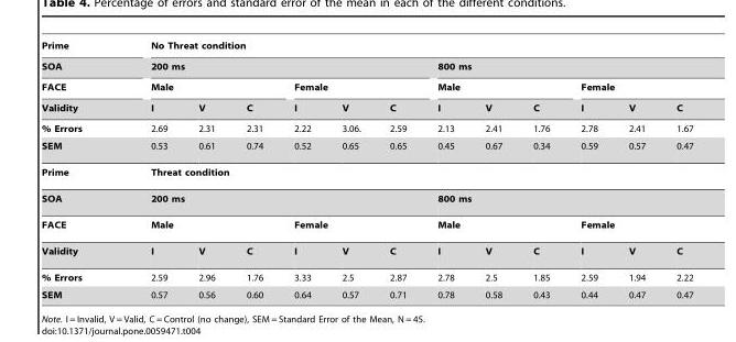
<table><thead><tr><td rowspan="4">Prime SOA FACE Validity</td><td colspan="12">No Threat condition</td></tr><tr><td colspan="6">200 ms</td><td colspan="6">800 ms</td></tr><tr><td colspan="3">Male</td><td colspan="3">Female</td><td colspan="3">Male</td><td colspan="3">Female</td></tr><tr><td>I</td><td>V</td><td>C</td><td>I</td><td>V</td><td>C</td><td>I</td><td>V</td><td>C</td><td>I</td><td>V</td><td>C</td></tr></thead><tbody><tr><td>% Errors</td><td>2.69</td><td>2.31</td><td>2.31</td><td>2.22</td><td>3.06.</td><td>2.59</td><td>2.13</td><td>2.41</td><td>1.76</td><td>2.78</td><td>2.41</td><td>1.67</td></tr><tr><td>SEM</td><td>0.53</td><td>0.61</td><td>0.74</td><td>0.52</td><td>0.65</td><td>0.65</td><td>0.45</td><td>0.67</td><td>0.34</td><td>0.59</td><td>0.57</td><td>0.47</td></tr><tr><td>Prime</td><td colspan="12">Threat condition</td></tr><tr><td>SOA</td><td colspan="6">200 ms</td><td colspan="6">800 ms</td></tr><tr><td>FACE</td><td colspan="3">Male</td><td colspan="3">Female</td><td colspan="3">Male</td><td colspan="3">Female</td></tr><tr><td>Validity</td><td>I</td><td>V</td><td>C</td><td>I</td><td>V</td><td>C</td><td>I</td><td>V</td><td>C</td><td>I</td><td>V</td><td>C</td></tr><tr><td>% Errors</td><td>2.59</td><td>2.96</td><td>1.76</td><td>3.33</td><td>2.5</td><td>2.87</td><td>2.78</td><td>2.5</td><td>1.85</td><td>2.59</td><td>1.94</td><td>2.22</td></tr><tr><td>SEM</td><td>0.57</td><td>0.56</td><td>0.60</td><td>0.64</td><td>0.57</td><td>0.71</td><td>0.78</td><td>0.58</td><td>0.43</td><td>0.44</td><td>0.47</td><td>0.47</td></tr></tbody></table>